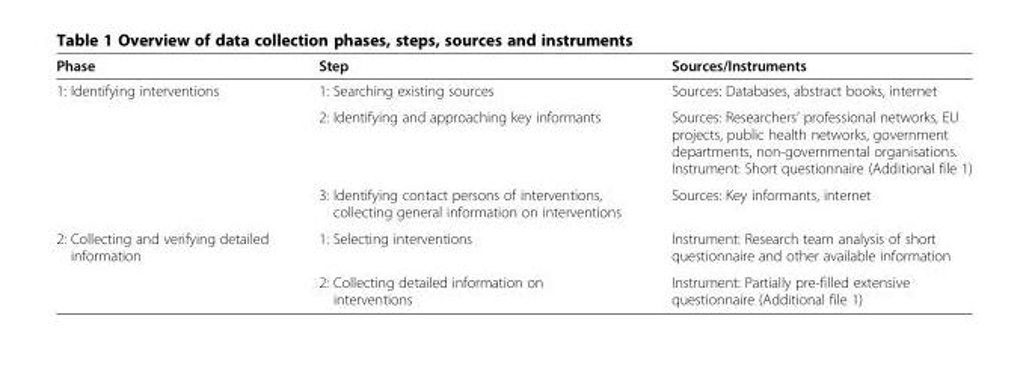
<table><thead><tr><td>Phase</td><td>Step</td><td>Sources/Instruments</td></tr></thead><tbody><tr><td rowspan="3">1: Identifying interventions</td><td>1: Searching existing sources</td><td>Sources: Databases, abstract books, internet</td></tr><tr><td>2: Identifying and approaching key informants</td><td>Sources: Researchers’ professional networks, EU projects, public health networks, government departments, non-governmental organisations. Instrument: Short questionnaire (Additional file 1)</td></tr><tr><td>3: Identifying contact persons of interventions, collecting general information on interventions</td><td>Sources: Key informants, internet</td></tr><tr><td rowspan="2">2: Collecting and verifying detailed information</td><td>1: Selecting interventions</td><td>Instrument: Research team analysis of short questionnaire and other available information</td></tr><tr><td>2: Collecting detailed information on interventions</td><td>Instrument: Partially pre-filled extensive questionnaire (Additional file 1)</td></tr></tbody></table>